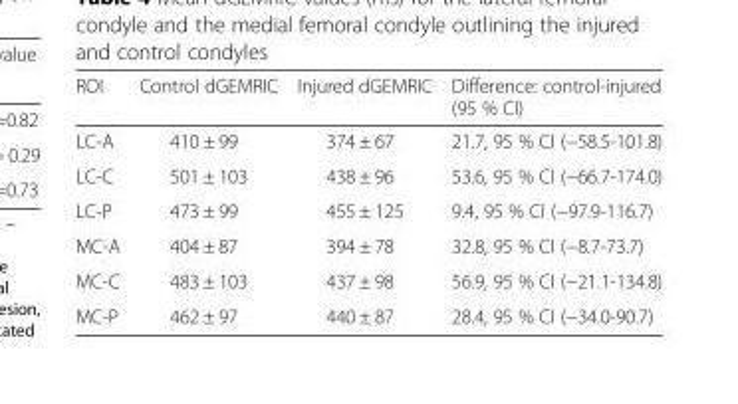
<table><thead><tr><td>ROI</td><td>Control dGEMRIC</td><td>Injured dGEMRIC</td><td>Difference: control-injured (95 % CI)</td></tr></thead><tbody><tr><td>LC-A</td><td>410 ± 99</td><td>374 ± 67</td><td>21.7, 95 % CI (−58.5-101.8)</td></tr><tr><td>LC-C</td><td>501 ± 103</td><td>438 ± 96</td><td>53.6, 95 % CI (−66.7-174.0)</td></tr><tr><td>LC-P</td><td>473 ± 99</td><td>455 ± 125</td><td>9.4, 95 % CI (−97.9-116.7)</td></tr><tr><td>MC-A</td><td>404 ± 87</td><td>394 ± 78</td><td>32.8, 95 % CI (−8.7-73.7)</td></tr><tr><td>MC-C</td><td>483 ± 103</td><td>437 ± 98</td><td>56.9, 95 % CI (−21.1-134.8)</td></tr><tr><td>MC-P</td><td>462 ± 97</td><td>440 ± 87</td><td>28.4, 95 % CI (−34.0-90.7)</td></tr></tbody></table>